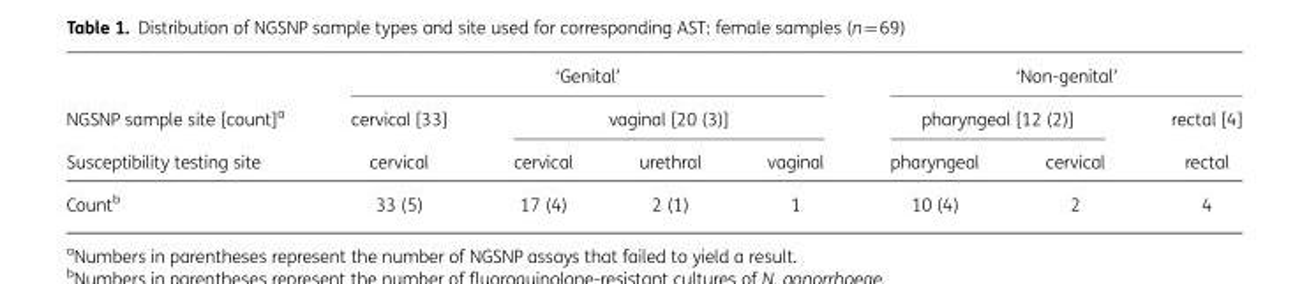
<table><thead><tr><td rowspan="3">NGSNP sample site [count]<sup>a</sup> Susceptibility testing site</td><td colspan="4">‘Genital’</td><td colspan="3">‘Non-genital’</td></tr><tr><td rowspan="2">cervical [33] cervical</td><td colspan="3">vaginal [20 (3)]</td><td colspan="2">pharyngeal [12 (2)]</td><td rowspan="2">rectal [4] rectal</td></tr><tr><td>cervical</td><td>urethral</td><td>vaginal</td><td>pharyngeal</td><td>cervical</td></tr></thead><tbody><tr><td>Count<sup>b</sup></td><td>33 (5)</td><td>17 (4)</td><td>2 (1)</td><td>1</td><td>10 (4)</td><td>2</td><td>4</td></tr></tbody></table>